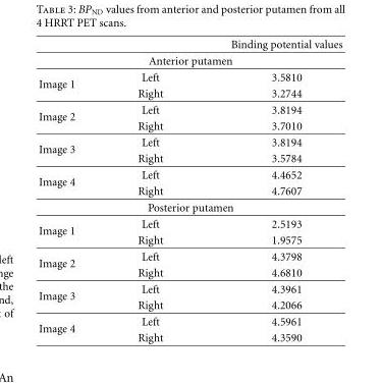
<table><thead><tr><td></td><td></td><td>Binding potential values</td></tr></thead><tbody><tr><td colspan="3">Anterior putamen</td></tr><tr><td rowspan="2">Image 1</td><td>Left</td><td>3.5810</td></tr><tr><td>Right</td><td>3.2744</td></tr><tr><td rowspan="2">Image 2</td><td>Left</td><td>3.8194</td></tr><tr><td>Right</td><td>3.7010</td></tr><tr><td rowspan="2">Image 3</td><td>Left</td><td>3.8194</td></tr><tr><td>Right</td><td>3.5784</td></tr><tr><td rowspan="2">Image 4</td><td>Left</td><td>4.4652</td></tr><tr><td>Right</td><td>4.7607</td></tr><tr><td colspan="3">Posterior putamen</td></tr><tr><td rowspan="2">Image 1</td><td>Left</td><td>2.5193</td></tr><tr><td>Right</td><td>1.9575</td></tr><tr><td rowspan="2">Image 2</td><td>Left</td><td>4.3798</td></tr><tr><td>Right</td><td>4.6810</td></tr><tr><td rowspan="2">Image 3</td><td>Left</td><td>4.3961</td></tr><tr><td>Right</td><td>4.2066</td></tr><tr><td rowspan="2">Image 4</td><td>Left</td><td>4.5961</td></tr><tr><td>Right</td><td>4.3590</td></tr></tbody></table>